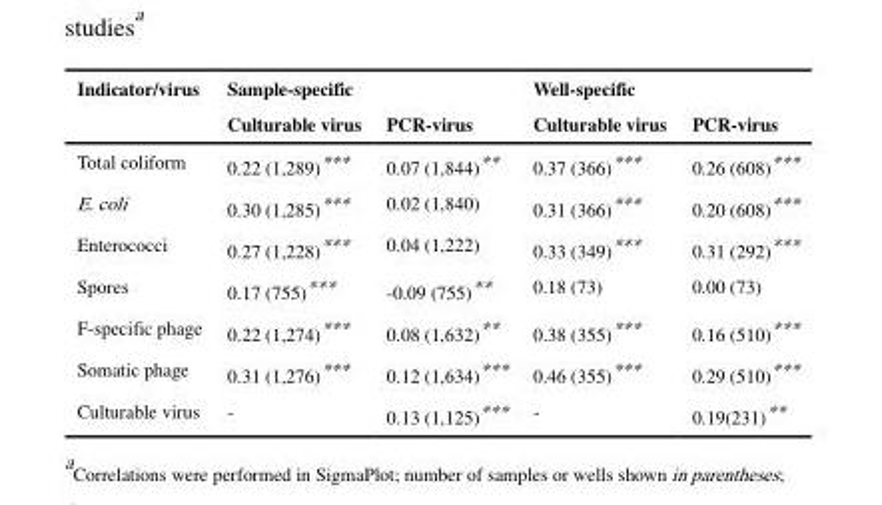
<table><thead><tr><td rowspan="2">Indicator/virus</td><td colspan="2">Sample-specific</td><td colspan="2">Well-specific</td></tr><tr><td>Culturable virus</td><td>PCR-virus</td><td>Culturable virus</td><td>PCR-virus</td></tr></thead><tbody><tr><td>Total coliform</td><td>0.22 (1,289)***</td><td>0.07 (1,844)**</td><td>0.37 (366)***</td><td>0.26 (608)***</td></tr><tr><td>E. coli</td><td>0.30 (1,285)***</td><td>0.02 (1,840)</td><td>0.31 (366)***</td><td>0.20 (608)***</td></tr><tr><td>Enterococci</td><td>0.27 (1,228)***</td><td>0.04 (1,222)</td><td>0.33 (349)***</td><td>0.31 (292)***</td></tr><tr><td>Spores</td><td>0.17 (755)***</td><td>-0.09 (755)**</td><td>0.18 (73)</td><td>0.00 (73)</td></tr><tr><td>F-specific phage</td><td>0.22 (1,274)***</td><td>0.08 (1,632)**</td><td>0.38 (355)***</td><td>0.16 (510)***</td></tr><tr><td>Somatic phage</td><td>0.31 (1,276)***</td><td>0.12 (1,634)***</td><td>0.46 (355)***</td><td>0.29 (510)***</td></tr><tr><td>Culturable virus</td><td>-</td><td>0.13 (1,125)***</td><td>-</td><td>0.19(231)**</td></tr></tbody></table>